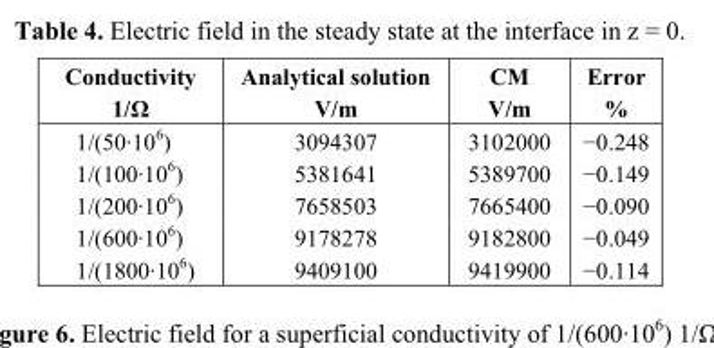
<table><thead><tr><td>Conductivity 1/Ω</td><td>Analytical solution V/m</td><td>CM V/m</td><td>Error %</td></tr></thead><tbody><tr><td>1/(50·10<sup>6</sup>)</td><td>3094307</td><td>3102000</td><td>−0.248</td></tr><tr><td>1/(100·10<sup>6</sup>)</td><td>5381641</td><td>5389700</td><td>−0.149</td></tr><tr><td>1/(200·10<sup>6</sup>)</td><td>7658503</td><td>7665400</td><td>−0.090</td></tr><tr><td>1/(600·10<sup>6</sup>)</td><td>9178278</td><td>9182800</td><td>−0.049</td></tr><tr><td>1/(1800·10<sup>6</sup>)</td><td>9409100</td><td>9419900</td><td>−0.114</td></tr></tbody></table>